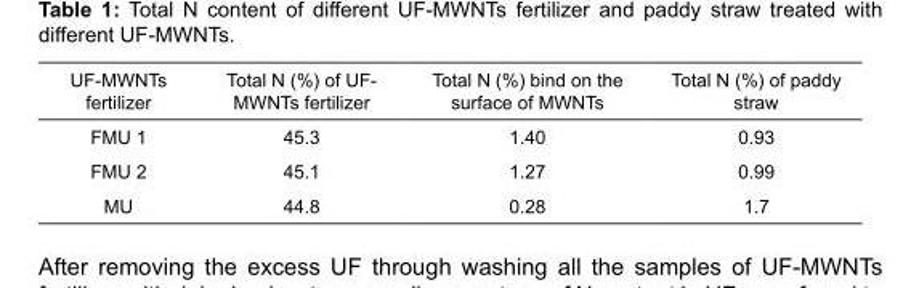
<table><thead><tr><td>UF-MWNTs fertilizer</td><td>Total N (%) of UF- MWNTs fertilizer</td><td>Total N (%) bind on the surface of MWNTs</td><td>Total N (%) of paddy straw</td></tr></thead><tbody><tr><td>FMU 1</td><td>45.3</td><td>1.40</td><td>0.93</td></tr><tr><td>FMU 2</td><td>45.1</td><td>1.27</td><td>0.99</td></tr><tr><td>MU</td><td>44.8</td><td>0.28</td><td>1.7</td></tr></tbody></table>